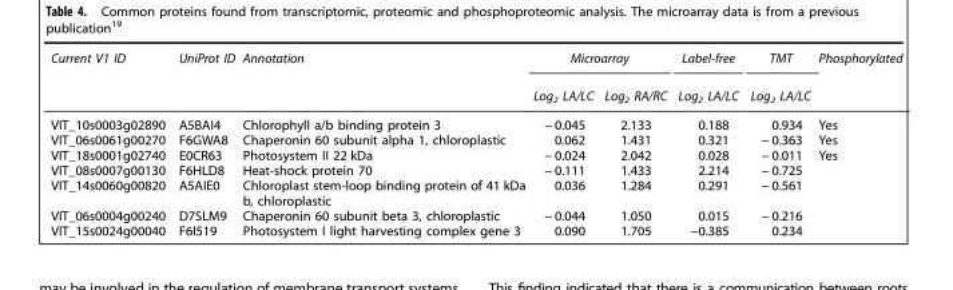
<table><thead><tr><td rowspan="2">Current V1 ID</td><td rowspan="2">UniProt ID</td><td rowspan="2">Annotation</td><td colspan="2">Microarray</td><td rowspan="2">Label-free Log<sub>2</sub> LA/LC</td><td rowspan="2">TMT Log<sub>2</sub> LA/LC</td><td rowspan="2">Phosphorylated</td></tr><tr><td>Log<sub>2</sub> LA/LC</td><td>Log<sub>2</sub> RA/RC</td></tr></thead><tbody><tr><td>VIT_10s0003g02890</td><td>A5BAI4</td><td>Chlorophyll a/b binding protein 3</td><td>− 0.045</td><td>2.133</td><td>0.188</td><td>0.934</td><td>Yes</td></tr><tr><td>VIT_06s0061g00270</td><td>F6GWA8</td><td>Chaperonin 60 subunit alpha 1, chloroplastic</td><td>0.062</td><td>1.431</td><td>0.321</td><td>− 0.363</td><td>Yes</td></tr><tr><td>VIT_18s0001g02740</td><td>E0CR63</td><td>Photosystem II 22 kDa</td><td>− 0.024</td><td>2.042</td><td>0.028</td><td>− 0.011</td><td>Yes</td></tr><tr><td>VIT_08s0007g00130</td><td>F6HLD8</td><td>Heat-shock protein 70</td><td>− 0.111</td><td>1.433</td><td>2.214</td><td>− 0.725</td><td></td></tr><tr><td>VIT_14s0060g00820</td><td>A5AIE0</td><td>Chloroplast stem-loop binding protein of 41 kDa b, chloroplastic</td><td>0.036</td><td>1.284</td><td>0.291</td><td>− 0.561</td><td></td></tr><tr><td>VIT_06s0004g00240</td><td>D7SLM9</td><td>Chaperonin 60 subunit beta 3, chloroplastic</td><td>− 0.044</td><td>1.050</td><td>0.015</td><td>− 0.216</td><td></td></tr><tr><td>VIT_15s0024g00040</td><td>F6I519</td><td>Photosystem I light harvesting complex gene 3</td><td>0.090</td><td>1.705</td><td>−0.385</td><td>0.234</td><td></td></tr></tbody></table>